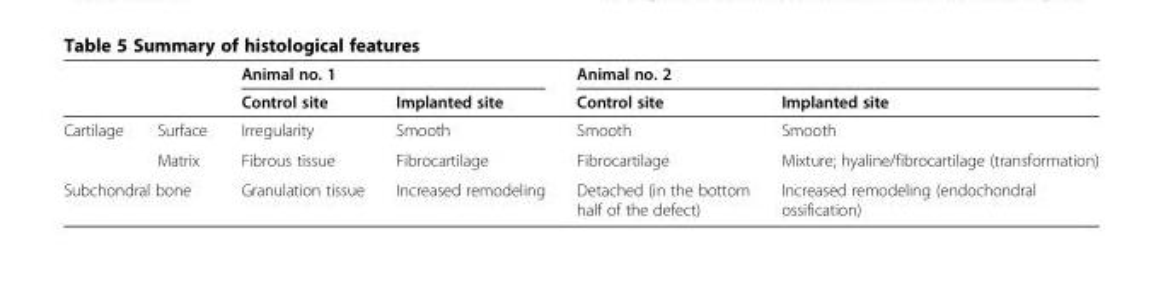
<table><thead><tr><td rowspan="2"></td><td rowspan="2"></td><td colspan="2">Animal no. 1</td><td colspan="2">Animal no. 2</td></tr><tr><td>Control site</td><td>Implanted site</td><td>Control site</td><td>Implanted site</td></tr></thead><tbody><tr><td rowspan="2">Cartilage</td><td>Surface</td><td>Irregularity</td><td>Smooth</td><td>Smooth</td><td>Smooth</td></tr><tr><td>Matrix</td><td>Fibrous tissue</td><td>Fibrocartilage</td><td>Fibrocartilage</td><td>Mixture; hyaline/fibrocartilage (transformation)</td></tr><tr><td colspan="2">Subchondral bone</td><td>Granulation tissue</td><td>Increased remodeling</td><td>Detached (in the bottom half of the defect)</td><td>Increased remodeling (endochondral ossification)</td></tr></tbody></table>